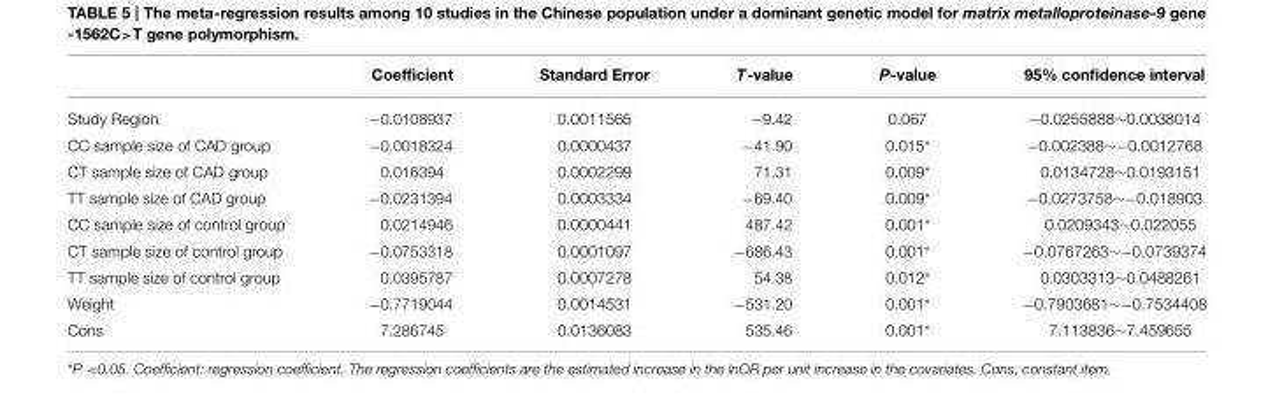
<table><thead><tr><td></td><td>Coefficient</td><td>Standard Error</td><td>T-value</td><td>P-value</td><td>95% confidence interval</td></tr></thead><tbody><tr><td>Study Region</td><td>−0.0108937</td><td>0.0011565</td><td>−9.42</td><td>0.067</td><td>−0.0255888∼0.0038014</td></tr><tr><td>CC sample size of CAD group</td><td>−0.0018324</td><td>0.0000437</td><td>−41.90</td><td>0.015*</td><td>−0.002388∼−0.0012768</td></tr><tr><td>CT sample size of CAD group</td><td>0.016394</td><td>0.0002299</td><td>71.31</td><td>0.009*</td><td>0.0134728∼0.0193151</td></tr><tr><td>TT sample size of CAD group</td><td>−0.0231394</td><td>0.0003334</td><td>−69.40</td><td>0.009*</td><td>−0.0273758∼−0.018903</td></tr><tr><td>CC sample size of control group</td><td>0.0214946</td><td>0.0000441</td><td>487.42</td><td>0.001*</td><td>0.0209343∼0.022055</td></tr><tr><td>CT sample size of control group</td><td>−0.0753318</td><td>0.0001097</td><td>−686.43</td><td>0.001*</td><td>−0.0767263∼−0.0739374</td></tr><tr><td>TT sample size of control group</td><td>0.0395787</td><td>0.0007278</td><td>54.38</td><td>0.012*</td><td>0.0303313∼0.0488261</td></tr><tr><td>Weight</td><td>−0.7719044</td><td>0.0014531</td><td>−531.20</td><td>0.001*</td><td>−0.7903681∼−0.7534408</td></tr><tr><td>Cons</td><td>7.286745</td><td>0.0136083</td><td>535.46</td><td>0.001*</td><td>7.113836∼7.459655</td></tr></tbody></table>